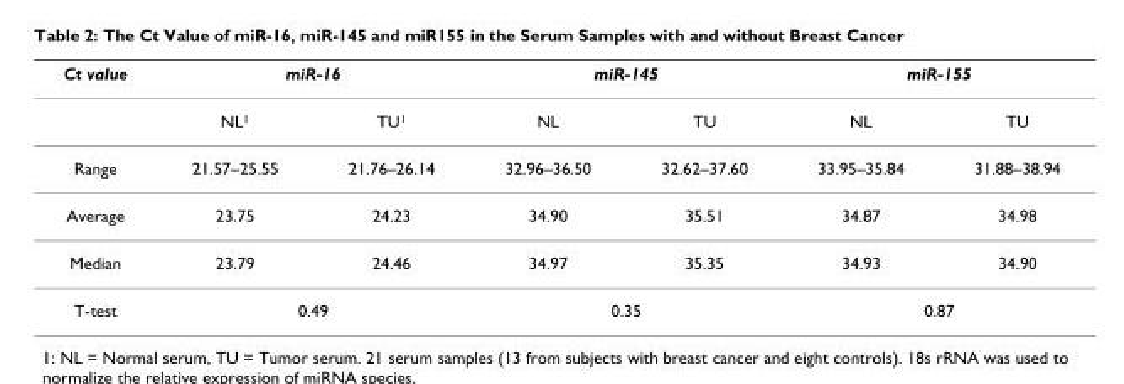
<table><thead><tr><td rowspan="2">Ct value</td><td colspan="2">miR-16</td><td colspan="2">miR-145</td><td colspan="2">miR-155</td></tr><tr><td>NL<sup>1</sup></td><td>TU<sup>1</sup></td><td>NL</td><td>TU</td><td>NL</td><td>TU</td></tr></thead><tbody><tr><td>Range</td><td>21.57–25.55</td><td>21.76–26.14</td><td>32.96–36.50</td><td>32.62–37.60</td><td>33.95–35.84</td><td>31.88–38.94</td></tr><tr><td>Average</td><td>23.75</td><td>24.23</td><td>34.90</td><td>35.51</td><td>34.87</td><td>34.98</td></tr><tr><td>Median</td><td>23.79</td><td>24.46</td><td>34.97</td><td>35.35</td><td>34.93</td><td>34.90</td></tr><tr><td>T-test</td><td colspan="2">0.49</td><td colspan="2">0.35</td><td colspan="2">0.87</td></tr></tbody></table>